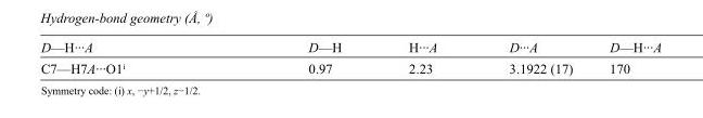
<table><tbody><tr><td>D—H···A</td><td>D—H</td><td>H···A</td><td>D···A</td><td>D—H···A</td></tr><tr><td>C7—H7A···O1<sup>i</sup></td><td>0.97</td><td>2.23</td><td>3.1922 (17)</td><td>170</td></tr></tbody></table>